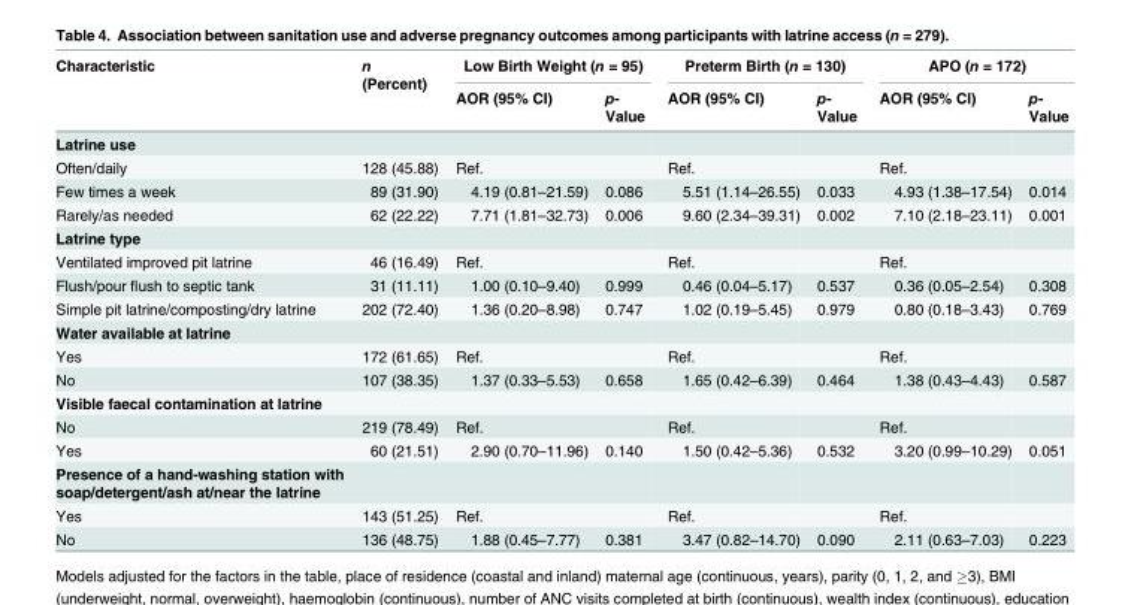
<table><thead><tr><td rowspan="2">Characteristic</td><td rowspan="2">n (Percent)</td><td colspan="2">Low Birth Weight (n = 95)</td><td colspan="2">Preterm Birth (n = 130)</td><td colspan="2">APO (n = 172)</td></tr><tr><td>AOR (95% CI)</td><td>p- Value</td><td>AOR (95% CI)</td><td>p- Value</td><td>AOR (95% CI)</td><td>p- Value</td></tr></thead><tbody><tr><td colspan="8">Latrine use</td></tr><tr><td>Often/daily</td><td>128 (45.88)</td><td>Ref.</td><td></td><td>Ref.</td><td></td><td>Ref.</td><td></td></tr><tr><td>Few times a week</td><td>89 (31.90)</td><td>4.19 (0.81–21.59)</td><td>0.086</td><td>5.51 (1.14–26.55)</td><td>0.033</td><td>4.93 (1.38–17.54)</td><td>0.014</td></tr><tr><td>Rarely/as needed</td><td>62 (22.22)</td><td>7.71 (1.81–32.73)</td><td>0.006</td><td>9.60 (2.34–39.31)</td><td>0.002</td><td>7.10 (2.18–23.11)</td><td>0.001</td></tr><tr><td colspan="8">Latrine type</td></tr><tr><td>Ventilated improved pit latrine</td><td>46 (16.49)</td><td>Ref.</td><td></td><td>Ref.</td><td></td><td>Ref.</td><td></td></tr><tr><td>Flush/pour flush to septic tank</td><td>31 (11.11)</td><td>1.00 (0.10–9.40)</td><td>0.999</td><td>0.46 (0.04–5.17)</td><td>0.537</td><td>0.36 (0.05–2.54)</td><td>0.308</td></tr><tr><td>Simple pit latrine/composting/dry latrine</td><td>202 (72.40)</td><td>1.36 (0.20–8.98)</td><td>0.747</td><td>1.02 (0.19–5.45)</td><td>0.979</td><td>0.80 (0.18–3.43)</td><td>0.769</td></tr><tr><td colspan="8">Water available at latrine</td></tr><tr><td>Yes</td><td>172 (61.65)</td><td>Ref.</td><td></td><td>Ref.</td><td></td><td>Ref.</td><td></td></tr><tr><td>No</td><td>107 (38.35)</td><td>1.37 (0.33–5.53)</td><td>0.658</td><td>1.65 (0.42–6.39)</td><td>0.464</td><td>1.38 (0.43–4.43)</td><td>0.587</td></tr><tr><td colspan="8">Visible faecal contamination at latrine</td></tr><tr><td>No</td><td>219 (78.49)</td><td>Ref.</td><td></td><td>Ref.</td><td></td><td>Ref.</td><td></td></tr><tr><td>Yes</td><td>60 (21.51)</td><td>2.90 (0.70–11.96)</td><td>0.140</td><td>1.50 (0.42–5.36)</td><td>0.532</td><td>3.20 (0.99–10.29)</td><td>0.051</td></tr><tr><td colspan="8">Presence of a hand-washing station with soap/detergent/ash at/near the latrine</td></tr><tr><td>Yes</td><td>143 (51.25)</td><td>Ref.</td><td></td><td>Ref.</td><td></td><td>Ref.</td><td></td></tr><tr><td>No</td><td>136 (48.75)</td><td>1.88 (0.45–7.77)</td><td>0.381</td><td>3.47 (0.82–14.70)</td><td>0.090</td><td>2.11 (0.63–7.03)</td><td>0.223</td></tr></tbody></table>